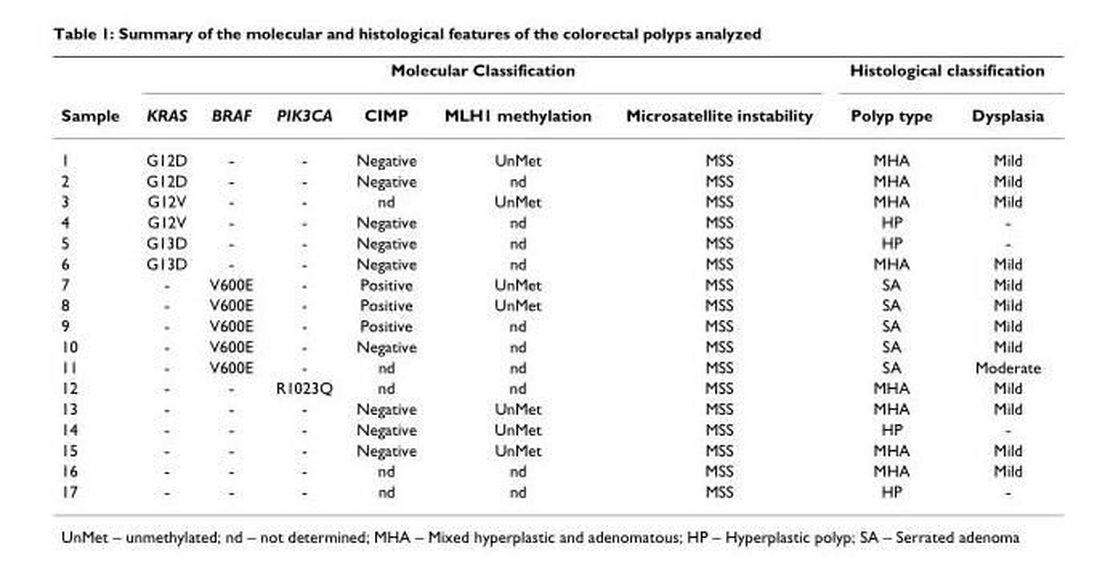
<table><thead><tr><td rowspan="2">Sample</td><td colspan="6">Molecular Classification</td><td colspan="2">Histological classification</td></tr><tr><td>KRAS</td><td>BRAF</td><td>PIK3CA</td><td>CIMP</td><td>MLH1 methylation</td><td>Microsatellite instability</td><td>Polyp type</td><td>Dysplasia</td></tr></thead><tbody><tr><td>1</td><td>G12D</td><td>-</td><td>-</td><td>Negative</td><td>UnMet</td><td>MSS</td><td>MHA</td><td>Mild</td></tr><tr><td>2</td><td>G12D</td><td>-</td><td>-</td><td>Negative</td><td>nd</td><td>MSS</td><td>MHA</td><td>Mild</td></tr><tr><td>3</td><td>G12V</td><td>-</td><td>-</td><td>nd</td><td>UnMet</td><td>MSS</td><td>MHA</td><td>Mild</td></tr><tr><td>4</td><td>G12V</td><td>-</td><td>-</td><td>Negative</td><td>nd</td><td>MSS</td><td>HP</td><td>-</td></tr><tr><td>5</td><td>G13D</td><td>-</td><td>-</td><td>Negative</td><td>nd</td><td>MSS</td><td>HP</td><td>-</td></tr><tr><td>6</td><td>G13D</td><td>-</td><td>-</td><td>Negative</td><td>nd</td><td>MSS</td><td>MHA</td><td>Mild</td></tr><tr><td>7</td><td>-</td><td>V600E</td><td>-</td><td>Positive</td><td>UnMet</td><td>MSS</td><td>SA</td><td>Mild</td></tr><tr><td>8</td><td>-</td><td>V600E</td><td>-</td><td>Positive</td><td>UnMet</td><td>MSS</td><td>SA</td><td>Mild</td></tr><tr><td>9</td><td>-</td><td>V600E</td><td>-</td><td>Positive</td><td>nd</td><td>MSS</td><td>SA</td><td>Mild</td></tr><tr><td>10</td><td>-</td><td>V600E</td><td>-</td><td>Negative</td><td>nd</td><td>MSS</td><td>SA</td><td>Mild</td></tr><tr><td>11</td><td>-</td><td>V600E</td><td>-</td><td>nd</td><td>nd</td><td>MSS</td><td>SA</td><td>Moderate</td></tr><tr><td>12</td><td>-</td><td>-</td><td>R1023Q</td><td>nd</td><td>nd</td><td>MSS</td><td>MHA</td><td>Mild</td></tr><tr><td>13</td><td>-</td><td>-</td><td>-</td><td>Negative</td><td>UnMet</td><td>MSS</td><td>MHA</td><td>Mild</td></tr><tr><td>14</td><td>-</td><td>-</td><td>-</td><td>Negative</td><td>UnMet</td><td>MSS</td><td>HP</td><td>-</td></tr><tr><td>15</td><td>-</td><td>-</td><td>-</td><td>Negative</td><td>UnMet</td><td>MSS</td><td>MHA</td><td>Mild</td></tr><tr><td>16</td><td>-</td><td>-</td><td>-</td><td>nd</td><td>nd</td><td>MSS</td><td>MHA</td><td>Mild</td></tr><tr><td>17</td><td>-</td><td>-</td><td>-</td><td>nd</td><td>nd</td><td>MSS</td><td>HP</td><td>-</td></tr></tbody></table>